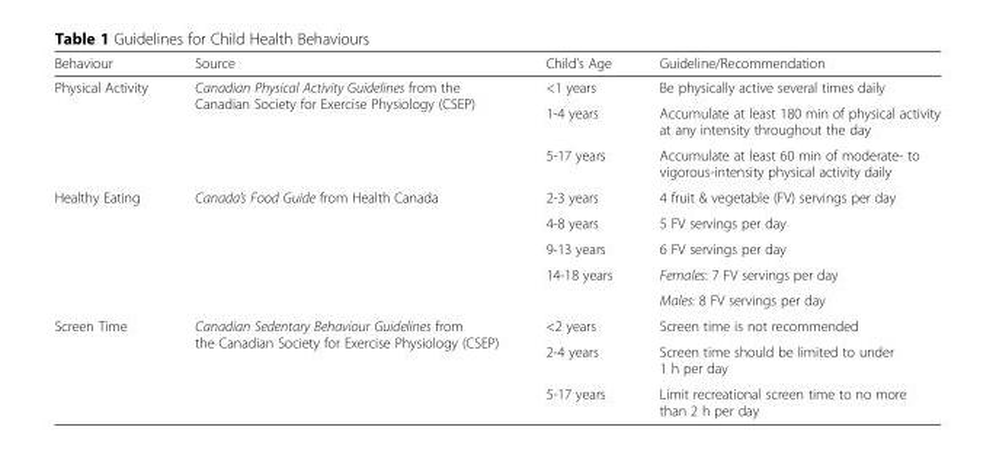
<table><thead><tr><td>Behaviour</td><td>Source</td><td>Child’s Age</td><td>Guideline/Recommendation</td></tr></thead><tbody><tr><td rowspan="3">Physical Activity</td><td rowspan="3">Canadian Physical Activity Guidelines from the Canadian Society for Exercise Physiology (CSEP)</td><td>&lt;1 years</td><td>Be physically active several times daily</td></tr><tr><td>1-4 years</td><td>Accumulate at least 180 min of physical activity at any intensity throughout the day</td></tr><tr><td>5-17 years</td><td>Accumulate at least 60 min of moderate- to vigorous-intensity physical activity daily</td></tr><tr><td rowspan="5">Healthy Eating</td><td rowspan="5">Canada’s Food Guide from Health Canada</td><td>2-3 years</td><td>4 fruit &amp; vegetable (FV) servings per day</td></tr><tr><td>4-8 years</td><td>5 FV servings per day</td></tr><tr><td>9-13 years</td><td>6 FV servings per day</td></tr><tr><td rowspan="2">14-18 years</td><td>Females: 7 FV servings per day</td></tr><tr><td>Males: 8 FV servings per day</td></tr><tr><td rowspan="3">Screen Time</td><td rowspan="3">Canadian Sedentary Behaviour Guidelines from the Canadian Society for Exercise Physiology (CSEP)</td><td>&lt;2 years</td><td>Screen time is not recommended</td></tr><tr><td>2-4 years</td><td>Screen time should be limited to under 1 h per day</td></tr><tr><td>5-17 years</td><td>Limit recreational screen time to no more than 2 h per day</td></tr></tbody></table>